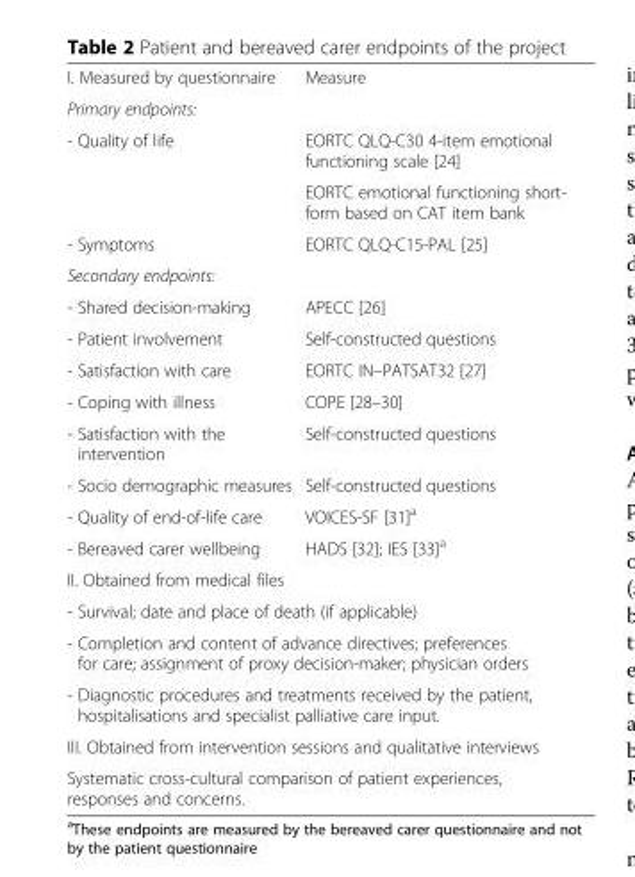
<table><tbody><tr><td>I. Measured by questionnaire</td><td>Measure</td></tr><tr><td colspan="2">Primary endpoints:</td></tr><tr><td rowspan="2">- Quality of life</td><td>EORTC QLQ-C30 4-item emotional functioning scale [24]</td></tr><tr><td>EORTC emotional functioning short- form based on CAT item bank</td></tr><tr><td>- Symptoms</td><td>EORTC QLQ-C15-PAL [25]</td></tr><tr><td colspan="2">Secondary endpoints:</td></tr><tr><td>- Shared decision-making</td><td>APECC [26]</td></tr><tr><td>- Patient involvement</td><td>Self-constructed questions</td></tr><tr><td>- Satisfaction with care</td><td>EORTC IN–PATSAT32 [27]</td></tr><tr><td>- Coping with illness</td><td>COPE [28–30]</td></tr><tr><td>- Satisfaction with the intervention</td><td>Self-constructed questions</td></tr><tr><td>- Socio demographic measures</td><td>Self-constructed questions</td></tr><tr><td>- Quality of end-of-life care</td><td>VOICES-SF [31]<sup>a</sup></td></tr><tr><td>- Bereaved carer wellbeing</td><td>HADS [32]; IES [33]<sup>a</sup></td></tr><tr><td colspan="2">II. Obtained from medical files</td></tr><tr><td colspan="2">- Survival; date and place of death (if applicable)</td></tr><tr><td colspan="2">- Completion and content of advance directives; preferences for care; assignment of proxy decision-maker; physician orders</td></tr><tr><td colspan="2">- Diagnostic procedures and treatments received by the patient, hospitalisations and specialist palliative care input.</td></tr><tr><td colspan="2">III. Obtained from intervention sessions and qualitative interviews</td></tr><tr><td colspan="2">Systematic cross-cultural comparison of patient experiences, responses and concerns.</td></tr></tbody></table>